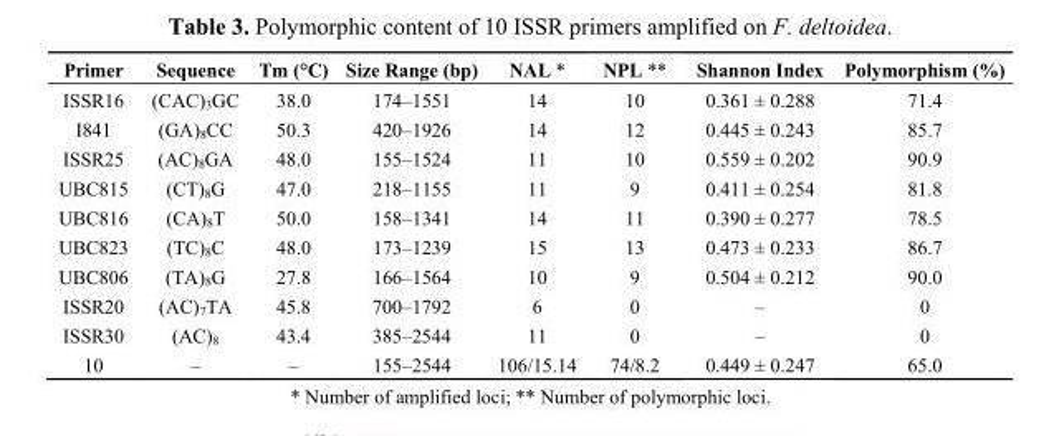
<table><thead><tr><td>Primer</td><td>Sequence</td><td>Tm (°C)</td><td>Size Range (bp)</td><td>NAL *</td><td>NPL **</td><td>Shannon Index</td><td>Polymorphism (%)</td></tr></thead><tbody><tr><td>ISSR16</td><td>(CAC)<sub>3</sub>GC</td><td>38.0</td><td>174–1551</td><td>14</td><td>10</td><td>0.361 ± 0.288</td><td>71.4</td></tr><tr><td>I841</td><td>(GA)<sub>8</sub>CC</td><td>50.3</td><td>420–1926</td><td>14</td><td>12</td><td>0.445 ± 0.243</td><td>85.7</td></tr><tr><td>ISSR25</td><td>(AC)<sub>8</sub>GA</td><td>48.0</td><td>155–1524</td><td>11</td><td>10</td><td>0.559 ± 0.202</td><td>90.9</td></tr><tr><td>UBC815</td><td>(CT)<sub>8</sub>G</td><td>47.0</td><td>218–1155</td><td>11</td><td>9</td><td>0.411 ± 0.254</td><td>81.8</td></tr><tr><td>UBC816</td><td>(CA)<sub>8</sub>T</td><td>50.0</td><td>158–1341</td><td>14</td><td>11</td><td>0.390 ± 0.277</td><td>78.5</td></tr><tr><td>UBC823</td><td>(TC)<sub>8</sub>C</td><td>48.0</td><td>173–1239</td><td>15</td><td>13</td><td>0.473 ± 0.233</td><td>86.7</td></tr><tr><td>UBC806</td><td>(TA)<sub>8</sub>G</td><td>27.8</td><td>166–1564</td><td>10</td><td>9</td><td>0.504 ± 0.212</td><td>90.0</td></tr><tr><td>ISSR20</td><td>(AC)<sub>7</sub>TA</td><td>45.8</td><td>700–1792</td><td>6</td><td>0</td><td>–</td><td>0</td></tr><tr><td>ISSR30</td><td>(AC)<sub>8</sub></td><td>43.4</td><td>385–2544</td><td>11</td><td>0</td><td>–</td><td>0</td></tr><tr><td>10</td><td>–</td><td>–</td><td>155–2544</td><td>106/15.14</td><td>74/8.2</td><td>0.449 ± 0.247</td><td>65.0</td></tr></tbody></table>